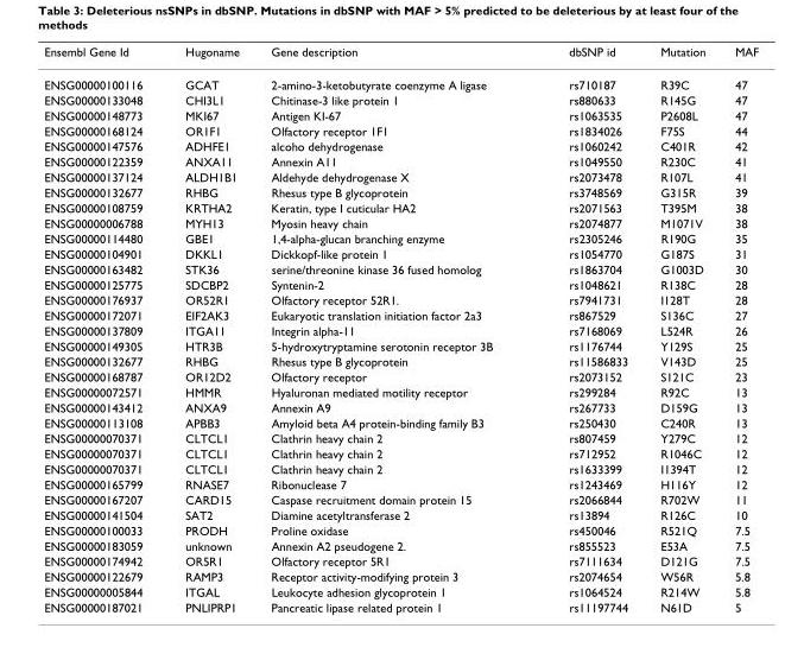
<table><thead><tr><td>Ensembl Gene Id</td><td>Hugoname</td><td>Gene description</td><td>dbSNP id</td><td>Mutation</td><td>MAF</td></tr></thead><tbody><tr><td>ENSG00000100116</td><td>GCAT</td><td>2-amino-3-ketobutyrate coenzyme A ligase</td><td>rs710187</td><td>R39C</td><td>47</td></tr><tr><td>ENSG00000133048</td><td>CHI3L1</td><td>Chitinase-3 like protein 1</td><td>rs880633</td><td>R145G</td><td>47</td></tr><tr><td>ENSG00000148773</td><td>MKI67</td><td>Antigen KI-67</td><td>rs1063535</td><td>P2608L</td><td>47</td></tr><tr><td>ENSG00000168124</td><td>OR1F1</td><td>Olfactory receptor 1F1</td><td>rs1834026</td><td>F75S</td><td>44</td></tr><tr><td>ENSG00000147576</td><td>ADHFE1</td><td>alcoho dehydrogenase</td><td>rs1060242</td><td>C401R</td><td>42</td></tr><tr><td>ENSG00000122359</td><td>ANXA11</td><td>Annexin A11</td><td>rs1049550</td><td>R230C</td><td>41</td></tr><tr><td>ENSG00000137124</td><td>ALDH1B1</td><td>Aldehyde dehydrogenase X</td><td>rs2073478</td><td>R107L</td><td>41</td></tr><tr><td>ENSG00000132677</td><td>RHBG</td><td>Rhesus type B glycoprotein</td><td>rs3748569</td><td>G315R</td><td>39</td></tr><tr><td>ENSG00000108759</td><td>KRTHA2</td><td>Keratin, type I cuticular HA2</td><td>rs2071563</td><td>T395M</td><td>38</td></tr><tr><td>ENSG00000006788</td><td>MYH13</td><td>Myosin heavy chain</td><td>rs2074877</td><td>M1071V</td><td>38</td></tr><tr><td>ENSG00000114480</td><td>GBE1</td><td>1,4-alpha-glucan branching enzyme</td><td>rs2305246</td><td>R190G</td><td>35</td></tr><tr><td>ENSG00000104901</td><td>DKKL1</td><td>Dickkopf-like protein 1</td><td>rs1054770</td><td>G187S</td><td>31</td></tr><tr><td>ENSG00000163482</td><td>STK36</td><td>serine/threonine kinase 36 fused homolog</td><td>rs1863704</td><td>G1003D</td><td>30</td></tr><tr><td>ENSG00000125775</td><td>SDCBP2</td><td>Syntenin-2</td><td>rs1048621</td><td>R138C</td><td>28</td></tr><tr><td>ENSG00000176937</td><td>OR52R1</td><td>Olfactory receptor 52R1.</td><td>rs7941731</td><td>I128T</td><td>28</td></tr><tr><td>ENSG00000172071</td><td>EIF2AK3</td><td>Eukaryotic translation initiation factor 2a3</td><td>rs867529</td><td>S136C</td><td>27</td></tr><tr><td>ENSG00000137809</td><td>ITGA11</td><td>Integrin alpha-11</td><td>rs7168069</td><td>L524R</td><td>26</td></tr><tr><td>ENSG00000149305</td><td>HTR3B</td><td>5-hydroxytryptamine serotonin receptor 3B</td><td>rs1176744</td><td>Y129S</td><td>25</td></tr><tr><td>ENSG00000132677</td><td>RHBG</td><td>Rhesus type B glycoprotein</td><td>rs11586833</td><td>V143D</td><td>25</td></tr><tr><td>ENSG00000168787</td><td>OR12D2</td><td>Olfactory receptor</td><td>rs2073152</td><td>S121C</td><td>23</td></tr><tr><td>ENSG00000072571</td><td>HMMR</td><td>Hyaluronan mediated motility receptor</td><td>rs299284</td><td>R92C</td><td>13</td></tr><tr><td>ENSG00000143412</td><td>ANXA9</td><td>Annexin A9</td><td>rs267733</td><td>D159G</td><td>13</td></tr><tr><td>ENSG00000113108</td><td>APBB3</td><td>Amyloid beta A4 protein-binding family B3</td><td>rs250430</td><td>C240R</td><td>13</td></tr><tr><td>ENSG00000070371</td><td>CLTCL1</td><td>Clathrin heavy chain 2</td><td>rs807459</td><td>Y279C</td><td>12</td></tr><tr><td>ENSG00000070371</td><td>CLTCL1</td><td>Clathrin heavy chain 2</td><td>rs712952</td><td>R1046C</td><td>12</td></tr><tr><td>ENSG00000070371</td><td>CLTCL1</td><td>Clathrin heavy chain 2</td><td>rs1633399</td><td>I1394T</td><td>12</td></tr><tr><td>ENSG00000165799</td><td>RNASE7</td><td>Ribonuclease 7</td><td>rs1243469</td><td>H116Y</td><td>12</td></tr><tr><td>ENSG00000167207</td><td>CARD15</td><td>Caspase recruitment domain protein 15</td><td>rs2066844</td><td>R702W</td><td>11</td></tr><tr><td>ENSG00000141504</td><td>SAT2</td><td>Diamine acetyltransferase 2</td><td>rs13894</td><td>R126C</td><td>10</td></tr><tr><td>ENSG00000100033</td><td>PRODH</td><td>Proline oxidase</td><td>rs450046</td><td>R521Q</td><td>7.5</td></tr><tr><td>ENSG00000183059</td><td>unknown</td><td>Annexin A2 pseudogene 2.</td><td>rs855523</td><td>E53A</td><td>7.5</td></tr><tr><td>ENSG00000174942</td><td>OR5R1</td><td>Olfactory receptor 5R1</td><td>rs7111634</td><td>D121G</td><td>7.5</td></tr><tr><td>ENSG00000122679</td><td>RAMP3</td><td>Receptor activity-modifying protein 3</td><td>rs2074654</td><td>W56R</td><td>5.8</td></tr><tr><td>ENSG00000005844</td><td>ITGAL</td><td>Leukocyte adhesion glycoprotein 1</td><td>rs1064524</td><td>R214W</td><td>5.8</td></tr><tr><td>ENSG00000187021</td><td>PNLIPRP1</td><td>Pancreatic lipase related protein 1</td><td>rs11197744</td><td>N61D</td><td>5</td></tr></tbody></table>